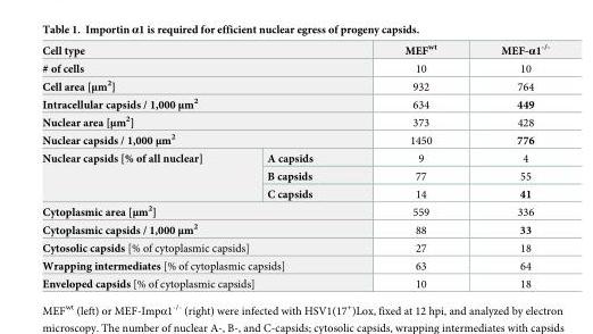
<table><thead><tr><td colspan="2">Cell type</td><td>MEF<sup>wt</sup></td><td>MEF-α1<sup>-/-</sup></td></tr></thead><tbody><tr><td colspan="2"># of cells</td><td>10</td><td>10</td></tr><tr><td colspan="2">Cell area [μm<sup>2</sup>]</td><td>932</td><td>764</td></tr><tr><td colspan="2">Intracellular capsids / 1,000 μm<sup>2</sup></td><td>634</td><td>449</td></tr><tr><td colspan="2">Nuclear area [μm<sup>2</sup>]</td><td>373</td><td>428</td></tr><tr><td colspan="2">Nuclear capsids / 1,000 μm<sup>2</sup></td><td>1450</td><td>776</td></tr><tr><td rowspan="3">Nuclear capsids [% of all nuclear]</td><td>A capsids</td><td>9</td><td>4</td></tr><tr><td>B capsids</td><td>77</td><td>55</td></tr><tr><td>C capsids</td><td>14</td><td>41</td></tr><tr><td colspan="2">Cytoplasmic area [μm<sup>2</sup>]</td><td>559</td><td>336</td></tr><tr><td colspan="2">Cytoplasmic capsids / 1,000 μm<sup>2</sup></td><td>88</td><td>33</td></tr><tr><td colspan="2">Cytosolic capsids [% of cytoplasmic capsids]</td><td>27</td><td>18</td></tr><tr><td colspan="2">Wrapping intermediates [% of cytoplasmic capsids]</td><td>63</td><td>64</td></tr><tr><td colspan="2">Enveloped capsids [% of cytoplasmic capsids]</td><td>10</td><td>18</td></tr></tbody></table>